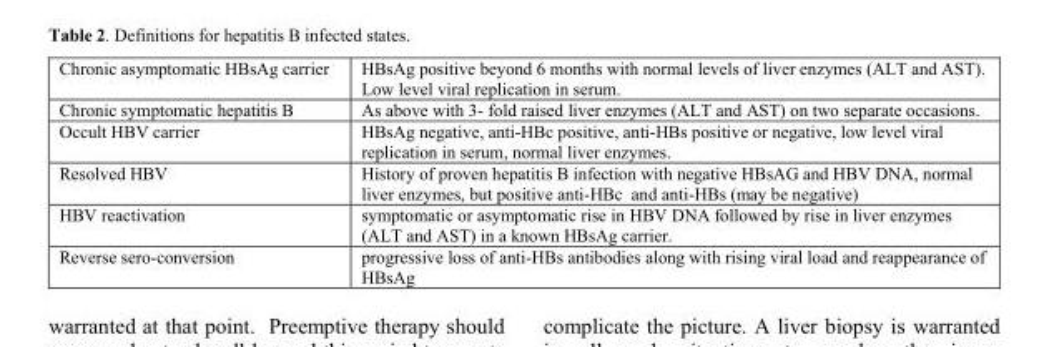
<table><tbody><tr><td>Chronic asymptomatic HBsAg carrier</td><td>HBsAg positive beyond 6 months with normal levels of liver enzymes (ALT and AST). Low level viral replication in serum.</td></tr><tr><td>Chronic symptomatic hepatitis B</td><td>As above with 3- fold raised liver enzymes (ALT and AST) on two separate occasions.</td></tr><tr><td>Occult HBV carrier</td><td>HBsAg negative, anti-HBc positive, anti-HBs positive or negative, low level viral replication in serum, normal liver enzymes.</td></tr><tr><td>Resolved HBV</td><td>History of proven hepatitis B infection with negative HBsAG and HBV DNA, normal liver enzymes, but positive anti-HBc and anti-HBs (may be negative)</td></tr><tr><td>HBV reactivation</td><td>symptomatic or asymptomatic rise in HBV DNA followed by rise in liver enzymes (ALT and AST) in a known HBsAg carrier.</td></tr><tr><td>Reverse sero-conversion</td><td>progressive loss of anti-HBs antibodies along with rising viral load and reappearance of HBsAg</td></tr></tbody></table>